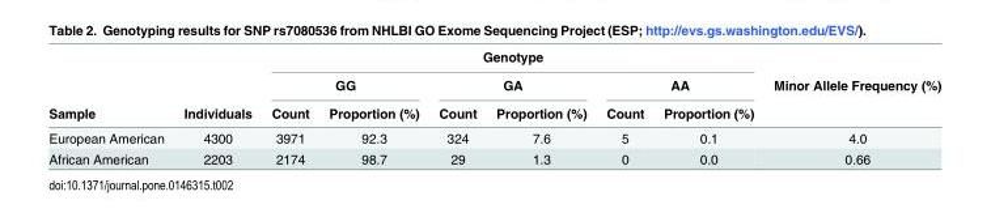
<table><thead><tr><td rowspan="3">Sample</td><td rowspan="3">Individuals</td><td colspan="6">Genotype</td><td rowspan="3">Minor Allele Frequency (%)</td></tr><tr><td colspan="2">GG</td><td colspan="2">GA</td><td colspan="2">AA</td></tr><tr><td>Count</td><td>Proportion (%)</td><td>Count</td><td>Proportion (%)</td><td>Count</td><td>Proportion (%)</td></tr></thead><tbody><tr><td>European American</td><td>4300</td><td>3971</td><td>92.3</td><td>324</td><td>7.6</td><td>5</td><td>0.1</td><td>4.0</td></tr><tr><td>African American</td><td>2203</td><td>2174</td><td>98.7</td><td>29</td><td>1.3</td><td>0</td><td>0.0</td><td>0.66</td></tr></tbody></table>